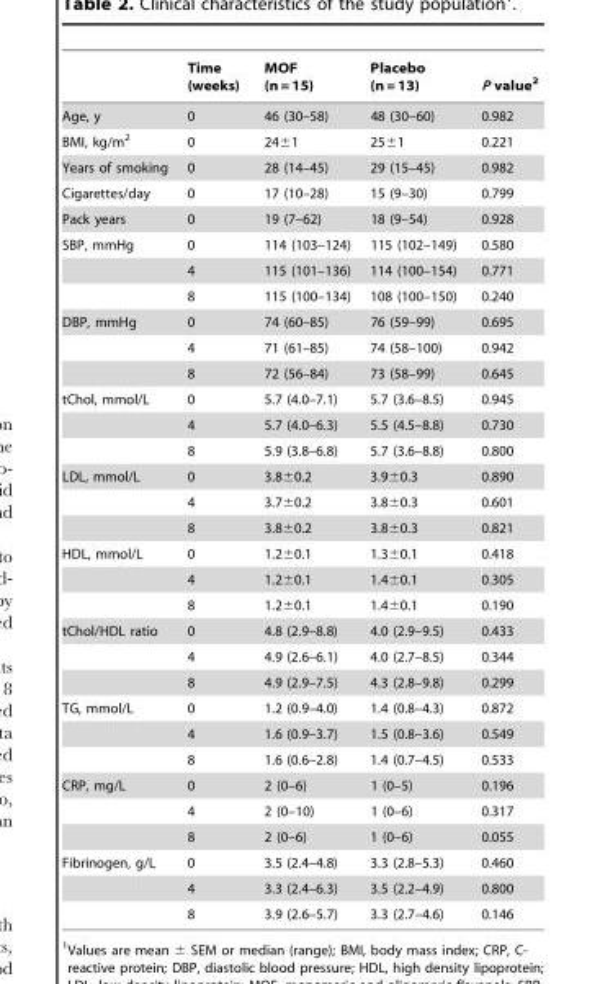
<table><thead><tr><td></td><td>Time (weeks)</td><td>MOF (n = 15)</td><td>Placebo (n = 13)</td><td>P value<sup>2</sup></td></tr></thead><tbody><tr><td>Age, y</td><td>0</td><td>46 (30–58)</td><td>48 (30–60)</td><td>0.982</td></tr><tr><td>BMI, kg/m<sup>2</sup></td><td>0</td><td>24±1</td><td>25±1</td><td>0.221</td></tr><tr><td>Years of smoking</td><td>0</td><td>28 (14–45)</td><td>29 (15–45)</td><td>0.982</td></tr><tr><td>Cigarettes/day</td><td>0</td><td>17 (10–28)</td><td>15 (9–30)</td><td>0.799</td></tr><tr><td>Pack years</td><td>0</td><td>19 (7–62)</td><td>18 (9–54)</td><td>0.928</td></tr><tr><td rowspan="3">SBP, mmHg</td><td>0</td><td>114 (103–124)</td><td>115 (102–149)</td><td>0.580</td></tr><tr><td>4</td><td>115 (101–136)</td><td>114 (100–154)</td><td>0.771</td></tr><tr><td>8</td><td>115 (100–134)</td><td>108 (100–150)</td><td>0.240</td></tr><tr><td rowspan="3">DBP, mmHg</td><td>0</td><td>74 (60–85)</td><td>76 (59–99)</td><td>0.695</td></tr><tr><td>4</td><td>71 (61–85)</td><td>74 (58–100)</td><td>0.942</td></tr><tr><td>8</td><td>72 (56–84)</td><td>73 (58–99)</td><td>0.645</td></tr><tr><td rowspan="3">tChol, mmol/L</td><td>0</td><td>5.7 (4.0–7.1)</td><td>5.7 (3.6–8.5)</td><td>0.945</td></tr><tr><td>4</td><td>5.7 (4.0–6.3)</td><td>5.5 (4.5–8.8)</td><td>0.730</td></tr><tr><td>8</td><td>5.9 (3.8–6.8)</td><td>5.7 (3.6–8.8)</td><td>0.800</td></tr><tr><td rowspan="3">LDL, mmol/L</td><td>0</td><td>3.8±0.2</td><td>3.9±0.3</td><td>0.890</td></tr><tr><td>4</td><td>3.7±0.2</td><td>3.8±0.3</td><td>0.601</td></tr><tr><td>8</td><td>3.8±0.2</td><td>3.8±0.3</td><td>0.821</td></tr><tr><td rowspan="3">HDL, mmol/L</td><td>0</td><td>1.2±0.1</td><td>1.3±0.1</td><td>0.418</td></tr><tr><td>4</td><td>1.2±0.1</td><td>1.4±0.1</td><td>0.305</td></tr><tr><td>8</td><td>1.2±0.1</td><td>1.4±0.1</td><td>0.190</td></tr><tr><td rowspan="3">tChol/HDL ratio</td><td>0</td><td>4.8 (2.9–8.8)</td><td>4.0 (2.9–9.5)</td><td>0.433</td></tr><tr><td>4</td><td>4.9 (2.6–6.1)</td><td>4.0 (2.7–8.5)</td><td>0.344</td></tr><tr><td>8</td><td>4.9 (2.9–7.5)</td><td>4.3 (2.8–9.8)</td><td>0.299</td></tr><tr><td rowspan="3">TG, mmol/L</td><td>0</td><td>1.2 (0.9–4.0)</td><td>1.4 (0.8–4.3)</td><td>0.872</td></tr><tr><td>4</td><td>1.6 (0.9–3.7)</td><td>1.5 (0.8–3.6)</td><td>0.549</td></tr><tr><td>8</td><td>1.6 (0.6–2.8)</td><td>1.4 (0.7–4.5)</td><td>0.533</td></tr><tr><td rowspan="3">CRP, mg/L</td><td>0</td><td>2 (0–6)</td><td>1 (0–5)</td><td>0.196</td></tr><tr><td>4</td><td>2 (0–10)</td><td>1 (0–6)</td><td>0.317</td></tr><tr><td>8</td><td>2 (0–6)</td><td>1 (0–6)</td><td>0.055</td></tr><tr><td rowspan="3">Fibrinogen, g/L</td><td>0</td><td>3.5 (2.4–4.8)</td><td>3.3 (2.8–5.3)</td><td>0.460</td></tr><tr><td>4</td><td>3.3 (2.4–6.3)</td><td>3.5 (2.2–4.9)</td><td>0.800</td></tr><tr><td>8</td><td>3.9 (2.6–5.7)</td><td>3.3 (2.7–4.6)</td><td>0.146</td></tr></tbody></table>